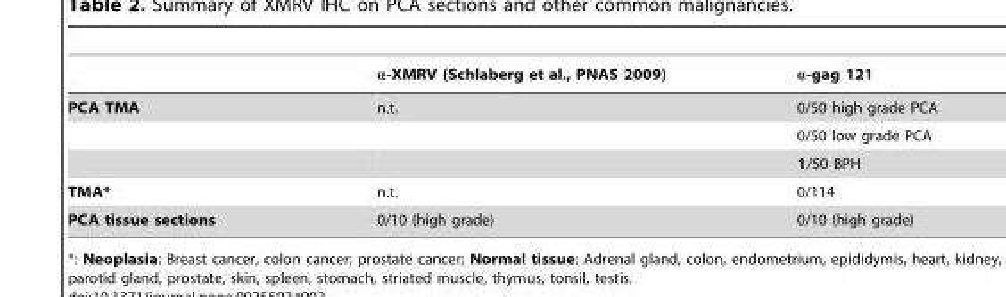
<table><thead><tr><td></td><td>α-XMRV (Schlaberg et al., PNAS 2009)</td><td>α-gag 121</td></tr></thead><tbody><tr><td rowspan="3">PCA TMA</td><td>n.t.</td><td>0/50 high grade PCA</td></tr><tr><td></td><td>0/50 low grade PCA</td></tr><tr><td></td><td>1/50 BPH</td></tr><tr><td>TMA*</td><td>n.t.</td><td>0/114</td></tr><tr><td>PCA tissue sections</td><td>0/10 (high grade)</td><td>0/10 (high grade)</td></tr></tbody></table>